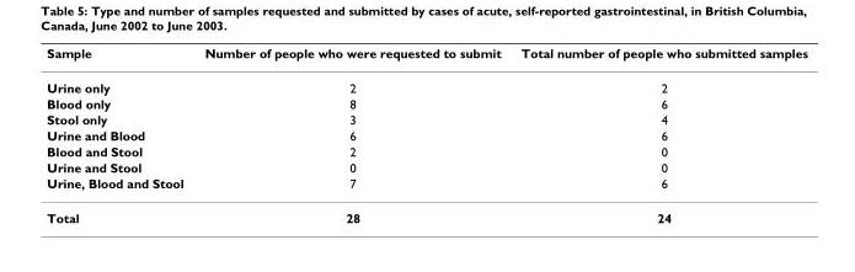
<table><thead><tr><td>Sample</td><td>Number of people who were requested to submit</td><td>Total number of people who submitted samples</td></tr></thead><tbody><tr><td>Urine only</td><td>2</td><td>2</td></tr><tr><td>Blood only</td><td>8</td><td>6</td></tr><tr><td>Stool only</td><td>3</td><td>4</td></tr><tr><td>Urine and Blood</td><td>6</td><td>6</td></tr><tr><td>Blood and Stool</td><td>2</td><td>0</td></tr><tr><td>Urine and Stool</td><td>0</td><td>0</td></tr><tr><td>Urine, Blood and Stool</td><td>7</td><td>6</td></tr><tr><td>Total</td><td>28</td><td>24</td></tr></tbody></table>